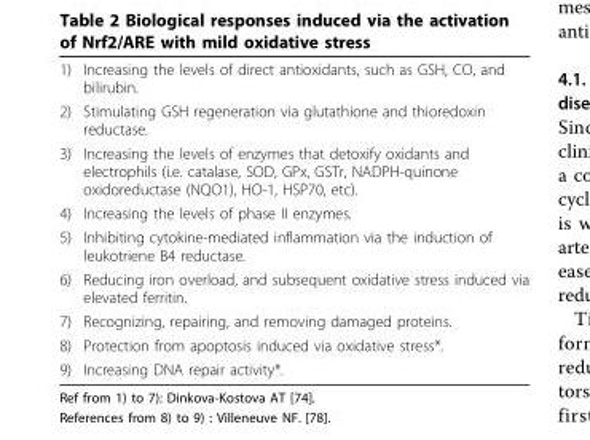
<table><tbody><tr><td>1)</td><td>Increasing the levels of direct antioxidants, such as GSH, CO, and bilirubin.</td></tr><tr><td>2)</td><td>Stimulating GSH regeneration via glutathione and thioredoxin reductase.</td></tr><tr><td>3)</td><td>Increasing the levels of enzymes that detoxify oxidants and electrophils (i.e. catalase, SOD, GPx, GSTr, NADPH-quinone oxidoreductase (NQO1), HO-1, HSP70, etc).</td></tr><tr><td>4)</td><td>Increasing the levels of phase II enzymes.</td></tr><tr><td>5)</td><td>Inhibiting cytokine-mediated inflammation via the induction of leukotriene B4 reductase.</td></tr><tr><td>6)</td><td>Reducing iron overload, and subsequent oxidative stress induced via elevated ferritin.</td></tr><tr><td>7)</td><td>Recognizing, repairing, and removing damaged proteins.</td></tr><tr><td>8)</td><td>Protection from apoptosis induced via oxidative stress*.</td></tr><tr><td>9)</td><td>Increasing DNA repair activity*.</td></tr></tbody></table>